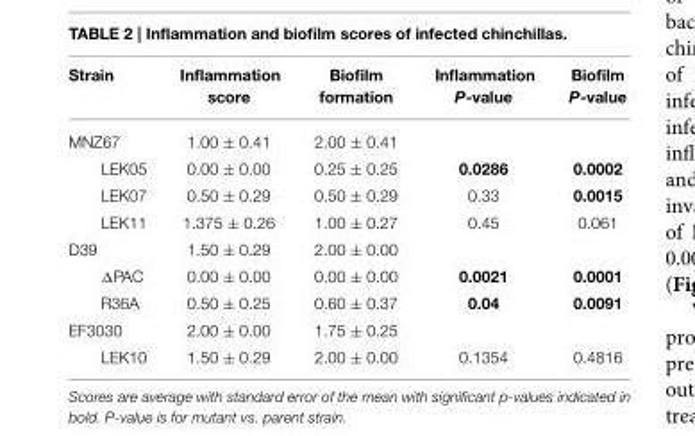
<table><thead><tr><td>Strain</td><td>Inflammation score</td><td>Biofilm formation</td><td>Inflammation P-value</td><td>Biofilm P-value</td></tr></thead><tbody><tr><td>MNZ67</td><td>1.00 ± 0.41</td><td>2.00 ± 0.41</td><td></td><td></td></tr><tr><td>LEK05</td><td>0.00 ± 0.00</td><td>0.25 ± 0.25</td><td>0.0286</td><td>0.0002</td></tr><tr><td>LEK07</td><td>0.50 ± 0.29</td><td>0.50 ± 0.29</td><td>0.33</td><td>0.0015</td></tr><tr><td>LEK11</td><td>1.375 ± 0.26</td><td>1.00 ± 0.27</td><td>0.45</td><td>0.061</td></tr><tr><td>D39</td><td>1.50 ± 0.29</td><td>2.00 ± 0.00</td><td></td><td></td></tr><tr><td>ΔPAC</td><td>0.00 ± 0.00</td><td>0.00 ± 0.00</td><td>0.0021</td><td>0.0001</td></tr><tr><td>R36A</td><td>0.50 ± 0.25</td><td>0.60 ± 0.37</td><td>0.04</td><td>0.0091</td></tr><tr><td>EF3030</td><td>2.00 ± 0.00</td><td>1.75 ± 0.25</td><td></td><td></td></tr><tr><td>LEK10</td><td>1.50 ± 0.29</td><td>2.00 ± 0.00</td><td>0.1354</td><td>0.4816</td></tr></tbody></table>